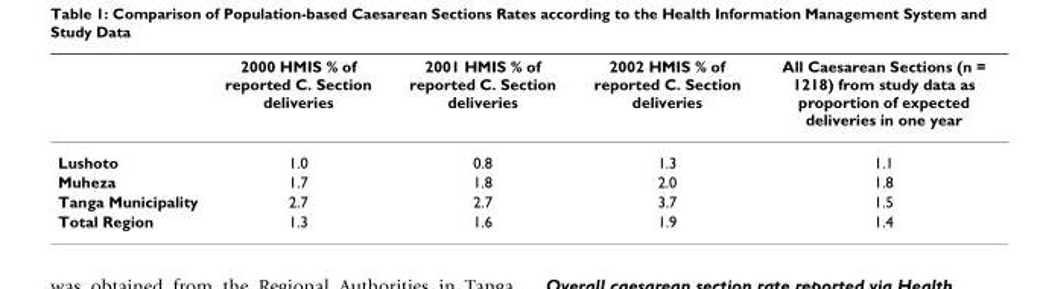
<table><thead><tr><td></td><td>2000 HMIS % of reported C. Section deliveries</td><td>2001 HMIS % of reported C. Section deliveries</td><td>2002 HMIS % of reported C. Section deliveries</td><td>All Caesarean Sections (n = 1218) from study data as proportion of expected deliveries in one year</td></tr></thead><tbody><tr><td>Lushoto</td><td>1.0</td><td>0.8</td><td>1.3</td><td>1.1</td></tr><tr><td>Muheza</td><td>1.7</td><td>1.8</td><td>2.0</td><td>1.8</td></tr><tr><td>Tanga Municipality</td><td>2.7</td><td>2.7</td><td>3.7</td><td>1.5</td></tr><tr><td>Total Region</td><td>1.3</td><td>1.6</td><td>1.9</td><td>1.4</td></tr></tbody></table>